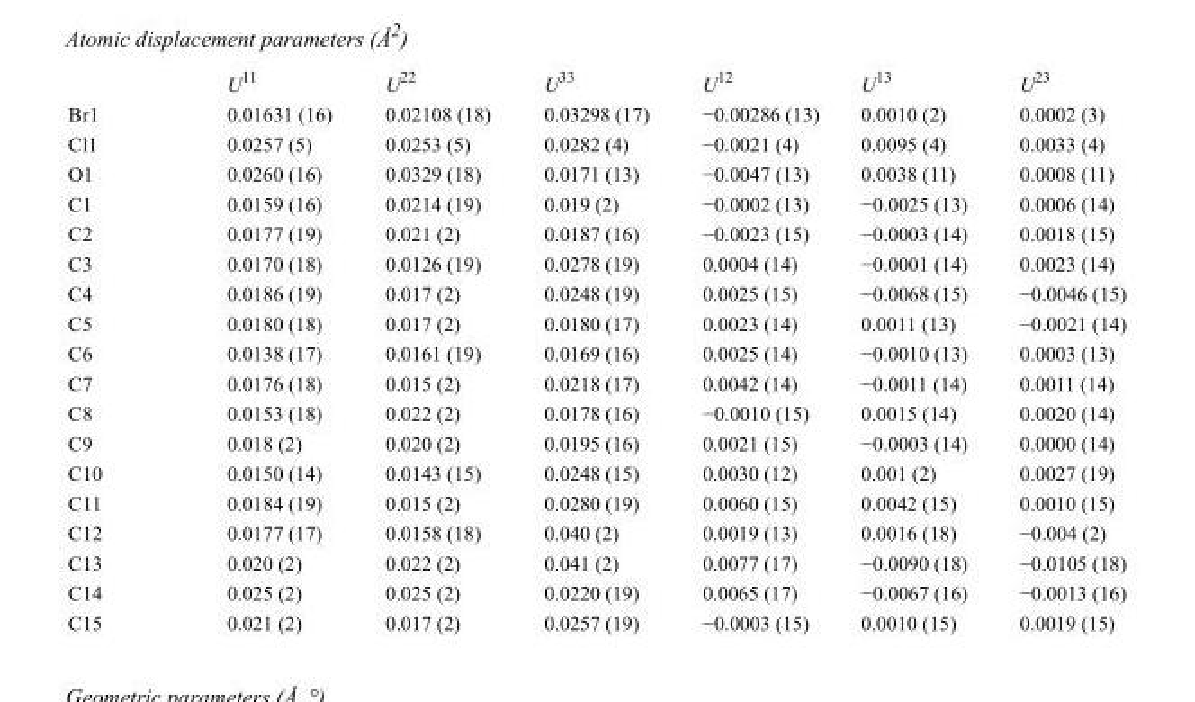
<table><thead><tr><td></td><td>U<sup>11</sup></td><td>U<sup>22</sup></td><td>U<sup>33</sup></td><td>U<sup>12</sup></td><td>U<sup>13</sup></td><td>U<sup>23</sup></td></tr></thead><tbody><tr><td>Br1</td><td>0.01631 (16)</td><td>0.02108 (18)</td><td>0.03298 (17)</td><td>−0.00286 (13)</td><td>0.0010 (2)</td><td>0.0002 (3)</td></tr><tr><td>Cl1</td><td>0.0257 (5)</td><td>0.0253 (5)</td><td>0.0282 (4)</td><td>−0.0021 (4)</td><td>0.0095 (4)</td><td>0.0033 (4)</td></tr><tr><td>O1</td><td>0.0260 (16)</td><td>0.0329 (18)</td><td>0.0171 (13)</td><td>−0.0047 (13)</td><td>0.0038 (11)</td><td>0.0008 (11)</td></tr><tr><td>C1</td><td>0.0159 (16)</td><td>0.0214 (19)</td><td>0.019 (2)</td><td>−0.0002 (13)</td><td>−0.0025 (13)</td><td>0.0006 (14)</td></tr><tr><td>C2</td><td>0.0177 (19)</td><td>0.021 (2)</td><td>0.0187 (16)</td><td>−0.0023 (15)</td><td>−0.0003 (14)</td><td>0.0018 (15)</td></tr><tr><td>C3</td><td>0.0170 (18)</td><td>0.0126 (19)</td><td>0.0278 (19)</td><td>0.0004 (14)</td><td>−0.0001 (14)</td><td>0.0023 (14)</td></tr><tr><td>C4</td><td>0.0186 (19)</td><td>0.017 (2)</td><td>0.0248 (19)</td><td>0.0025 (15)</td><td>−0.0068 (15)</td><td>−0.0046 (15)</td></tr><tr><td>C5</td><td>0.0180 (18)</td><td>0.017 (2)</td><td>0.0180 (17)</td><td>0.0023 (14)</td><td>0.0011 (13)</td><td>−0.0021 (14)</td></tr><tr><td>C6</td><td>0.0138 (17)</td><td>0.0161 (19)</td><td>0.0169 (16)</td><td>0.0025 (14)</td><td>−0.0010 (13)</td><td>0.0003 (13)</td></tr><tr><td>C7</td><td>0.0176 (18)</td><td>0.015 (2)</td><td>0.0218 (17)</td><td>0.0042 (14)</td><td>−0.0011 (14)</td><td>0.0011 (14)</td></tr><tr><td>C8</td><td>0.0153 (18)</td><td>0.022 (2)</td><td>0.0178 (16)</td><td>−0.0010 (15)</td><td>0.0015 (14)</td><td>0.0020 (14)</td></tr><tr><td>C9</td><td>0.018 (2)</td><td>0.020 (2)</td><td>0.0195 (16)</td><td>0.0021 (15)</td><td>−0.0003 (14)</td><td>0.0000 (14)</td></tr><tr><td>C10</td><td>0.0150 (14)</td><td>0.0143 (15)</td><td>0.0248 (15)</td><td>0.0030 (12)</td><td>0.001 (2)</td><td>0.0027 (19)</td></tr><tr><td>C11</td><td>0.0184 (19)</td><td>0.015 (2)</td><td>0.0280 (19)</td><td>0.0060 (15)</td><td>0.0042 (15)</td><td>0.0010 (15)</td></tr><tr><td>C12</td><td>0.0177 (17)</td><td>0.0158 (18)</td><td>0.040 (2)</td><td>0.0019 (13)</td><td>0.0016 (18)</td><td>−0.004 (2)</td></tr><tr><td>C13</td><td>0.020 (2)</td><td>0.022 (2)</td><td>0.041 (2)</td><td>0.0077 (17)</td><td>−0.0090 (18)</td><td>−0.0105 (18)</td></tr><tr><td>C14</td><td>0.025 (2)</td><td>0.025 (2)</td><td>0.0220 (19)</td><td>0.0065 (17)</td><td>−0.0067 (16)</td><td>−0.0013 (16)</td></tr><tr><td>C15</td><td>0.021 (2)</td><td>0.017 (2)</td><td>0.0257 (19)</td><td>−0.0003 (15)</td><td>0.0010 (15)</td><td>0.0019 (15)</td></tr></tbody></table>